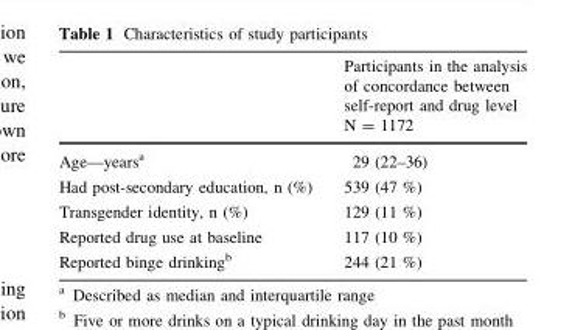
<table><thead><tr><td></td><td>Participants in the analysis of concordance between self-report and drug level N = 1172</td></tr></thead><tbody><tr><td>Age—years<sup>a</sup></td><td>29 (22–36)</td></tr><tr><td>Had post-secondary education, n (%)</td><td>539 (47 %)</td></tr><tr><td>Transgender identity, n (%)</td><td>129 (11 %)</td></tr><tr><td>Reported drug use at baseline</td><td>117 (10 %)</td></tr><tr><td>Reported binge drinking<sup>b</sup></td><td>244 (21 %)</td></tr></tbody></table>